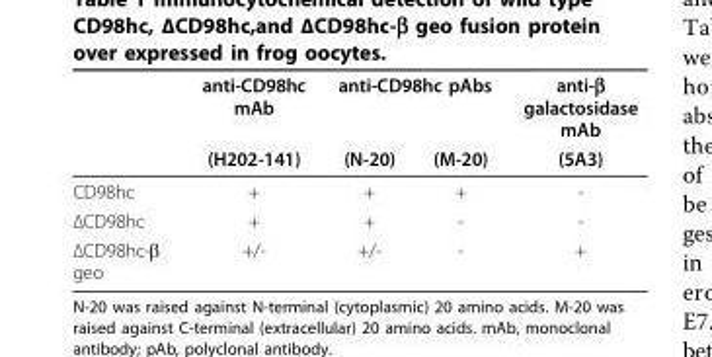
<table><thead><tr><td rowspan="2"></td><td rowspan="2">anti-CD98hc mAb (H202-141)</td><td colspan="2">anti-CD98hc pAbs</td><td rowspan="2">anti-β galactosidase mAb (5A3)</td></tr><tr><td>(N-20)</td><td>(M-20)</td></tr></thead><tbody><tr><td>CD98hc</td><td>+</td><td>+</td><td>+</td><td>-</td></tr><tr><td>ΔCD98hc</td><td>+</td><td>+</td><td>-</td><td>-</td></tr><tr><td>ΔCD98hc-β geo</td><td>+/-</td><td>+/-</td><td>-</td><td>+</td></tr></tbody></table>